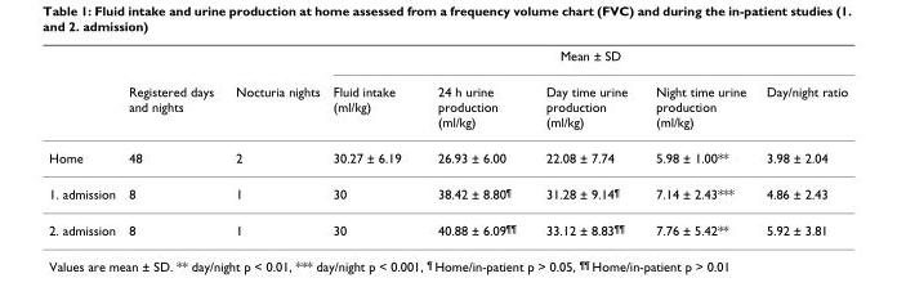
<table><thead><tr><td rowspan="2"></td><td rowspan="2">Registered days and nights</td><td rowspan="2">Nocturia nights</td><td colspan="5">Mean ± SD</td></tr><tr><td>Fluid intake (ml/kg)</td><td>24 h urine production (ml/kg)</td><td>Day time urine production (ml/kg)</td><td>Night time urine production (ml/kg)</td><td>Day/night ratio</td></tr></thead><tbody><tr><td>Home</td><td>48</td><td>2</td><td>30.27 ± 6.19</td><td>26.93 ± 6.00</td><td>22.08 ± 7.74</td><td>5.98 ± 1.00**</td><td>3.98 ± 2.04</td></tr><tr><td>1. admission</td><td>8</td><td>1</td><td>30</td><td>38.42 ± 8.80<sup>¶</sup></td><td>31.28 ± 9.14<sup>¶</sup></td><td>7.14 ± 2.43***</td><td>4.86 ± 2.43</td></tr><tr><td>2. admission</td><td>8</td><td>1</td><td>30</td><td>40.88 ± 6.09<sup>¶¶</sup></td><td>33.12 ± 8.83<sup>¶¶</sup></td><td>7.76 ± 5.42**</td><td>5.92 ± 3.81</td></tr></tbody></table>